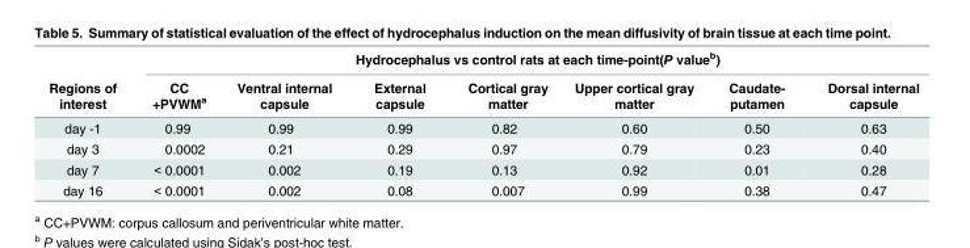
<table><thead><tr><td rowspan="2">Regions of interest</td><td colspan="7">Hydrocephalus vs control rats at each time-point(P value<sup>b</sup>)</td></tr><tr><td>CC +PVWM<sup>a</sup></td><td>Ventral internal capsule</td><td>External capsule</td><td>Cortical gray matter</td><td>Upper cortical gray matter</td><td>Caudate- putamen</td><td>Dorsal internal capsule</td></tr></thead><tbody><tr><td>day -1</td><td>0.99</td><td>0.99</td><td>0.99</td><td>0.82</td><td>0.60</td><td>0.50</td><td>0.63</td></tr><tr><td>day 3</td><td>0.0002</td><td>0.21</td><td>0.29</td><td>0.97</td><td>0.79</td><td>0.23</td><td>0.40</td></tr><tr><td>day 7</td><td>&lt; 0.0001</td><td>0.002</td><td>0.19</td><td>0.13</td><td>0.92</td><td>0.01</td><td>0.28</td></tr><tr><td>day 16</td><td>&lt; 0.0001</td><td>0.002</td><td>0.08</td><td>0.007</td><td>0.99</td><td>0.38</td><td>0.47</td></tr></tbody></table>